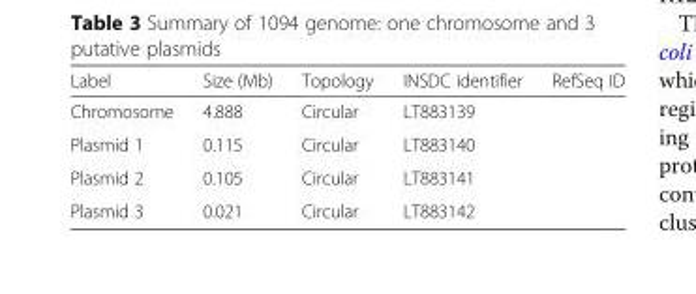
<table><thead><tr><td>Label</td><td>Size (Mb)</td><td>Topology</td><td>INSDC identifier</td><td>RefSeq ID</td></tr></thead><tbody><tr><td>Chromosome</td><td>4.888</td><td>Circular</td><td>LT883139</td><td></td></tr><tr><td>Plasmid 1</td><td>0.115</td><td>Circular</td><td>LT883140</td><td></td></tr><tr><td>Plasmid 2</td><td>0.105</td><td>Circular</td><td>LT883141</td><td></td></tr><tr><td>Plasmid 3</td><td>0.021</td><td>Circular</td><td>LT883142</td><td></td></tr></tbody></table>